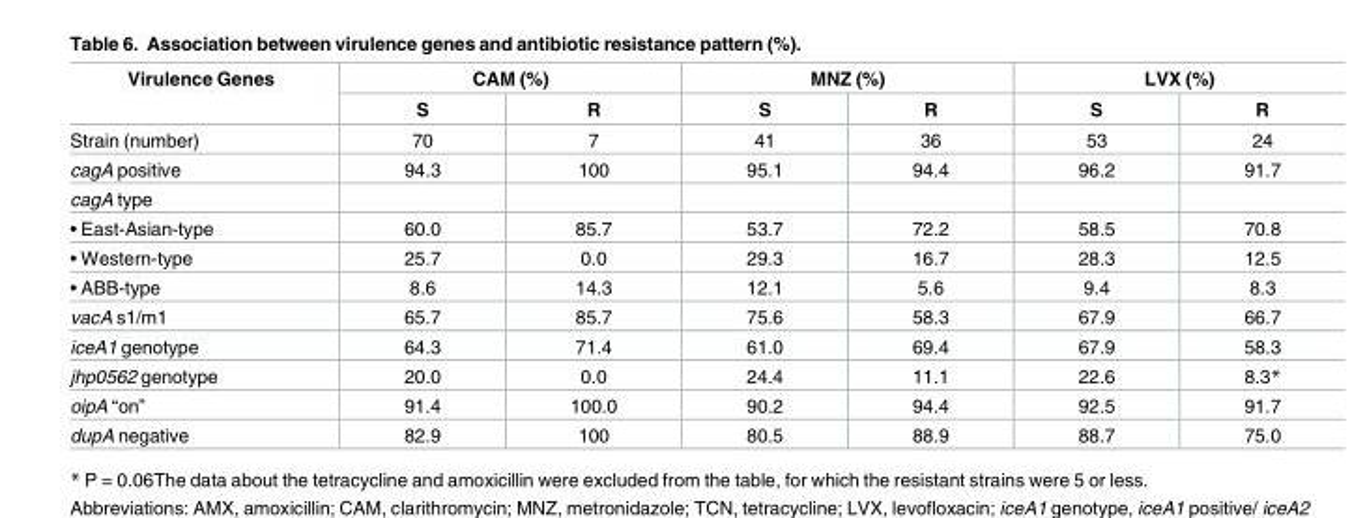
<table><thead><tr><td rowspan="2">Virulence Genes</td><td colspan="2">CAM (%)</td><td colspan="2">MNZ (%)</td><td colspan="2">LVX (%)</td></tr><tr><td>S</td><td>R</td><td>S</td><td>R</td><td>S</td><td>R</td></tr></thead><tbody><tr><td>Strain (number)</td><td>70</td><td>7</td><td>41</td><td>36</td><td>53</td><td>24</td></tr><tr><td>cagA positive</td><td>94.3</td><td>100</td><td>95.1</td><td>94.4</td><td>96.2</td><td>91.7</td></tr><tr><td colspan="7">cagA type</td></tr><tr><td>• East-Asian-type</td><td>60.0</td><td>85.7</td><td>53.7</td><td>72.2</td><td>58.5</td><td>70.8</td></tr><tr><td>• Western-type</td><td>25.7</td><td>0.0</td><td>29.3</td><td>16.7</td><td>28.3</td><td>12.5</td></tr><tr><td>• ABB-type</td><td>8.6</td><td>14.3</td><td>12.1</td><td>5.6</td><td>9.4</td><td>8.3</td></tr><tr><td>vacA s1/m1</td><td>65.7</td><td>85.7</td><td>75.6</td><td>58.3</td><td>67.9</td><td>66.7</td></tr><tr><td>iceA1 genotype</td><td>64.3</td><td>71.4</td><td>61.0</td><td>69.4</td><td>67.9</td><td>58.3</td></tr><tr><td>jhp0562 genotype</td><td>20.0</td><td>0.0</td><td>24.4</td><td>11.1</td><td>22.6</td><td>8.3*</td></tr><tr><td>oipA “on”</td><td>91.4</td><td>100.0</td><td>90.2</td><td>94.4</td><td>92.5</td><td>91.7</td></tr><tr><td>dupA negative</td><td>82.9</td><td>100</td><td>80.5</td><td>88.9</td><td>88.7</td><td>75.0</td></tr></tbody></table>